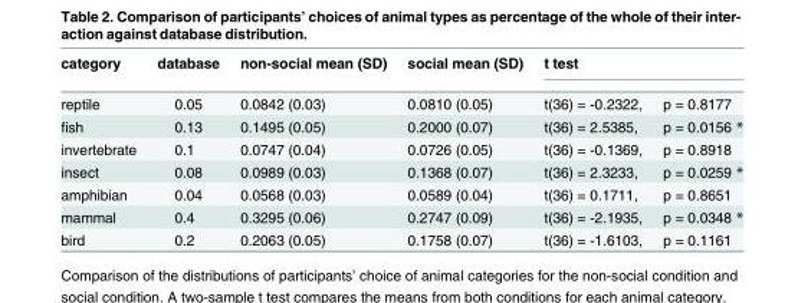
<table><thead><tr><td rowspan="2">category reptile</td><td rowspan="2">database 0.05</td><td rowspan="2">non-social mean (SD) 0.0842 (0.03)</td><td rowspan="2">social mean (SD) 0.0810 (0.05)</td><td colspan="2">t test</td></tr><tr><td>t(36) = -0.2322,</td><td>p = 0.8177</td></tr></thead><tbody><tr><td>fish</td><td>0.13</td><td>0.1495 (0.05)</td><td>0.2000 (0.07)</td><td>t(36) = 2.5385,</td><td>p = 0.0156 *</td></tr><tr><td>invertebrate</td><td>0.1</td><td>0.0747 (0.04)</td><td>0.0726 (0.05)</td><td>t(36) = -0.1369,</td><td>p = 0.8918</td></tr><tr><td>insect</td><td>0.08</td><td>0.0989 (0.03)</td><td>0.1368 (0.07)</td><td>t(36) = 2.3233,</td><td>p = 0.0259 *</td></tr><tr><td>amphibian</td><td>0.04</td><td>0.0568 (0.03)</td><td>0.0589 (0.04)</td><td>t(36) = 0.1711,</td><td>p = 0.8651</td></tr><tr><td>mammal</td><td>0.4</td><td>0.3295 (0.06)</td><td>0.2747 (0.09)</td><td>t(36) = -2.1935,</td><td>p = 0.0348 *</td></tr><tr><td>bird</td><td>0.2</td><td>0.2063 (0.05)</td><td>0.1758 (0.07)</td><td>t(36) = -1.6103,</td><td>p = 0.1161</td></tr></tbody></table>